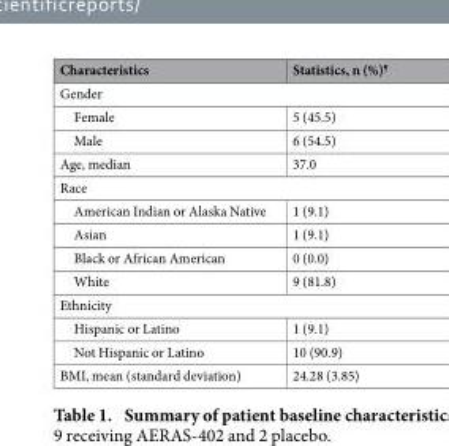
<table><thead><tr><td>Characteristics</td><td>Statistics, n (%)¶</td></tr></thead><tbody><tr><td colspan="2">Gender</td></tr><tr><td>Female</td><td>5 (45.5)</td></tr><tr><td>Male</td><td>6 (54.5)</td></tr><tr><td>Age, median</td><td>37.0</td></tr><tr><td colspan="2">Race</td></tr><tr><td>American Indian or Alaska Native</td><td>1 (9.1)</td></tr><tr><td>Asian</td><td>1 (9.1)</td></tr><tr><td>Black or African American</td><td>0 (0.0)</td></tr><tr><td>White</td><td>9 (81.8)</td></tr><tr><td colspan="2">Ethnicity</td></tr><tr><td>Hispanic or Latino</td><td>1 (9.1)</td></tr><tr><td>Not Hispanic or Latino</td><td>10 (90.9)</td></tr><tr><td>BMI, mean (standard deviation)</td><td>24.28 (3.85)</td></tr></tbody></table>